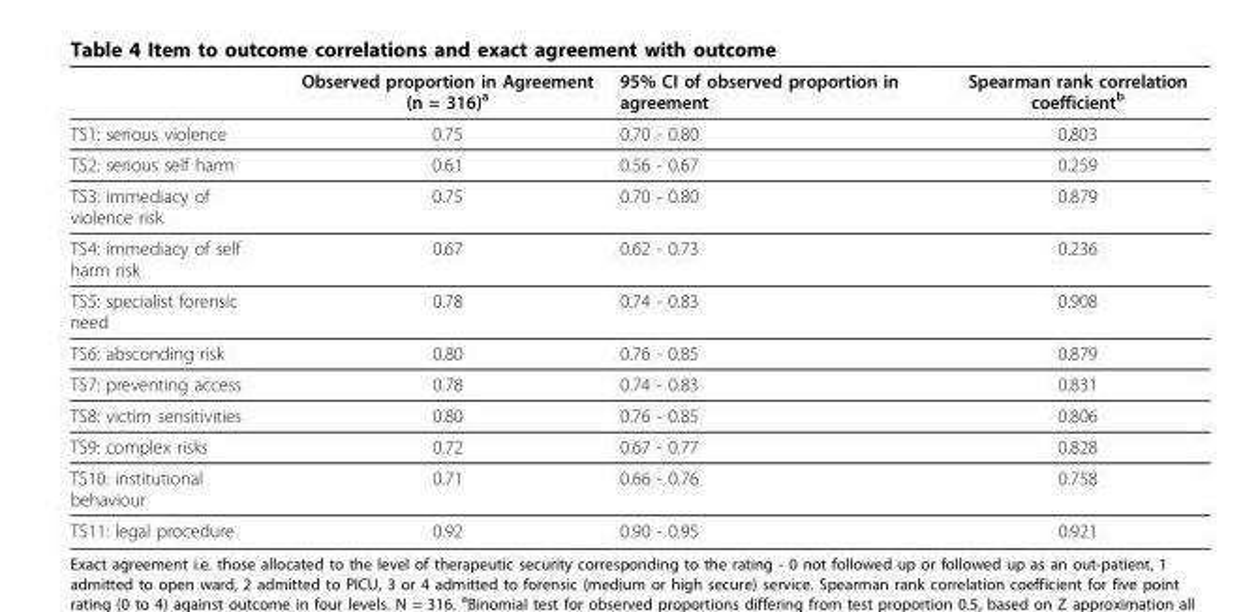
<table><thead><tr><td></td><td>Observed proportion in Agreement (n = 316)<sup>a</sup></td><td>95% CI of observed proportion in agreement</td><td>Spearman rank correlation coefficient<sup>b</sup></td></tr></thead><tbody><tr><td>TS1: serious violence</td><td>0.75</td><td>0.70 - 0.80</td><td>0.803</td></tr><tr><td>TS2: serious self harm</td><td>0.61</td><td>0.56 - 0.67</td><td>0.259</td></tr><tr><td>TS3: immediacy of violence risk</td><td>0.75</td><td>0.70 - 0.80</td><td>0.879</td></tr><tr><td>TS4: immediacy of self harm risk</td><td>0.67</td><td>0.62 - 0.73</td><td>0.236</td></tr><tr><td>TS5: specialist forensic need</td><td>0.78</td><td>0.74 - 0.83</td><td>0.908</td></tr><tr><td>TS6: absconding risk</td><td>0.80</td><td>0.76 - 0.85</td><td>0.879</td></tr><tr><td>TS7: preventing access</td><td>0.78</td><td>0.74 - 0.83</td><td>0.831</td></tr><tr><td>TS8: victim sensitivities</td><td>0.80</td><td>0.76 - 0.85</td><td>0.806</td></tr><tr><td>TS9: complex risks</td><td>0.72</td><td>0.67 - 0.77</td><td>0.828</td></tr><tr><td>TS10: institutional behaviour</td><td>0.71</td><td>0.66 - 0.76</td><td>0.758</td></tr><tr><td>TS11: legal procedure</td><td>0.92</td><td>0.90 - 0.95</td><td>0.921</td></tr></tbody></table>